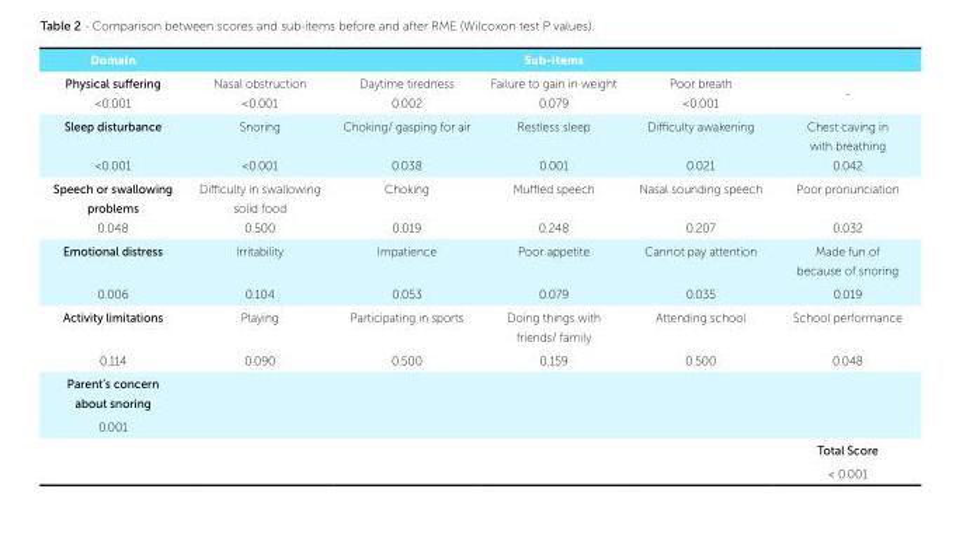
<table><thead><tr><td rowspan="2">Domain Physical suffering &lt;0.001</td><td colspan="5">Sub-items</td></tr><tr><td>Nasal obstruction &lt;0.001</td><td>Daytime tiredness 0.002</td><td>Failure to gain in weight 0.079</td><td>Poor breath &lt;0.001</td><td>-</td></tr></thead><tbody><tr><td>Sleep disturbance &lt;0.001</td><td>Snoring &lt;0.001</td><td>Choking/ gasping for air 0.038</td><td>Restless sleep 0.001</td><td>Difficulty awakening 0.021</td><td>Chest caving in with breathing 0.042</td></tr><tr><td>Speech or swallowing problems 0.048</td><td>Difficulty in swallowing solid food 0.500</td><td>Choking 0.019</td><td>Muffled speech 0.248</td><td>Nasal sounding speech 0.207</td><td>Poor pronunciation 0.032</td></tr><tr><td>Emotional distress</td><td>Irritability</td><td>Impatience</td><td>Poor appetite</td><td>Cannot pay attention</td><td>Made fun of because of snoring</td></tr><tr><td>0.006</td><td>0.104</td><td>0.053</td><td>0.079</td><td>0.035</td><td>0.019</td></tr><tr><td>Activity limitations</td><td>Playing</td><td>Participating in sports</td><td>Doing things with friends/ family</td><td>Attending school</td><td>School performance</td></tr><tr><td>0.114</td><td>0.090</td><td>0.500</td><td>0.159</td><td>0.500</td><td>0.048</td></tr><tr><td colspan="6">Parent’s concern about snoring</td></tr><tr><td colspan="6">0.001</td></tr><tr><td></td><td></td><td></td><td></td><td></td><td>Total Score</td></tr><tr><td></td><td></td><td></td><td></td><td></td><td>&lt; 0.001</td></tr></tbody></table>